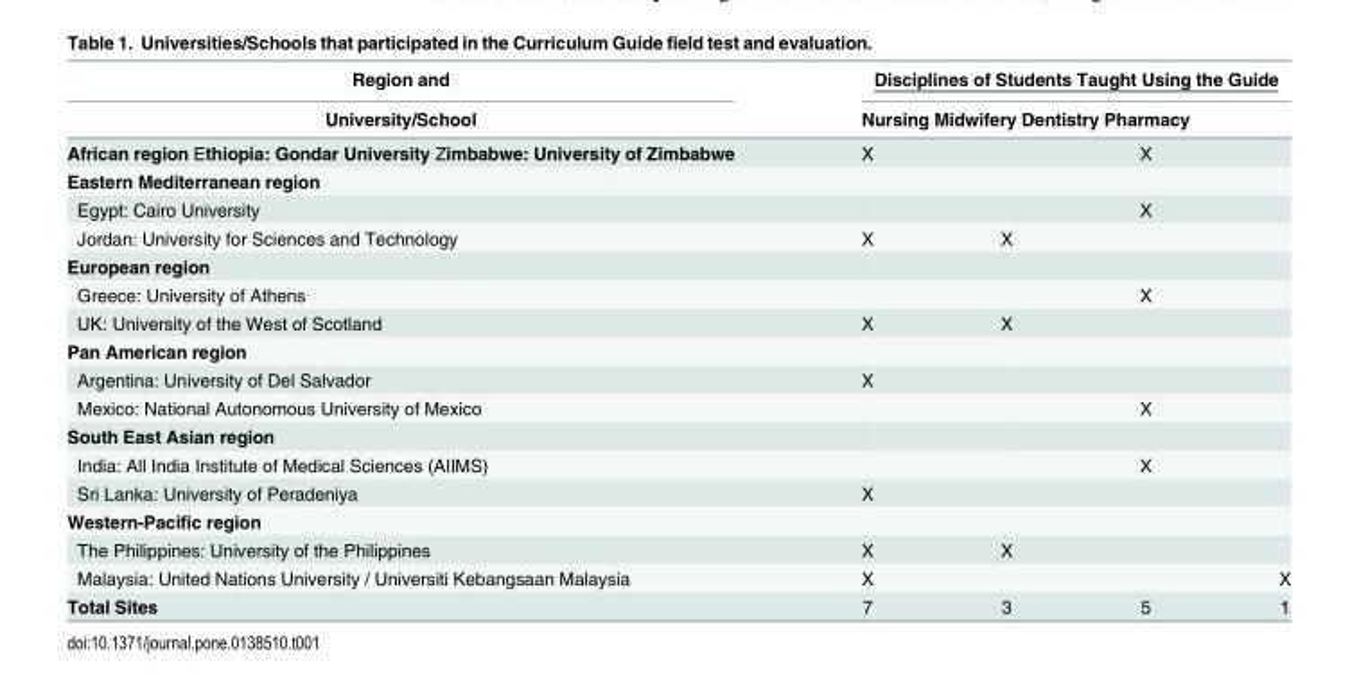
<table><thead><tr><td rowspan="3">Region and University/School African region Ethiopia: Gondar University Zimbabwe: University of Zimbabwe</td><td rowspan="2" colspan="4">Disciplines of Students Taught Using the Guide Nursing Midwifery Dentistry Pharmacy</td></tr><tr></tr><tr><td>X</td><td></td><td>X</td><td></td></tr></thead><tbody><tr><td colspan="5">Eastern Mediterranean region</td></tr><tr><td>Egypt: Cairo University</td><td></td><td></td><td>X</td><td></td></tr><tr><td>Jordan: University for Sciences and Technology</td><td>X</td><td>X</td><td></td><td></td></tr><tr><td colspan="5">European region</td></tr><tr><td>Greece: University of Athens</td><td></td><td></td><td>X</td><td></td></tr><tr><td>UK: University of the West of Scotland</td><td>X</td><td>X</td><td></td><td></td></tr><tr><td colspan="5">Pan American region</td></tr><tr><td>Argentina: University of Del Salvador</td><td>X</td><td></td><td></td><td></td></tr><tr><td>Mexico: National Autonomous University of Mexico</td><td></td><td></td><td>X</td><td></td></tr><tr><td colspan="5">South East Asian region</td></tr><tr><td>India: All India Institute of Medical Sciences (AIIMS)</td><td></td><td></td><td>X</td><td></td></tr><tr><td>Sri Lanka: University of Peradeniya</td><td>X</td><td></td><td></td><td></td></tr><tr><td colspan="5">Western-Pacific region</td></tr><tr><td>The Philippines: University of the Philippines</td><td>X</td><td>X</td><td></td><td></td></tr><tr><td>Malaysia: United Nations University / Universiti Kebangsaan Malaysia</td><td>X</td><td></td><td></td><td>X</td></tr><tr><td>Total Sites</td><td>7</td><td>3</td><td>5</td><td>1</td></tr></tbody></table>